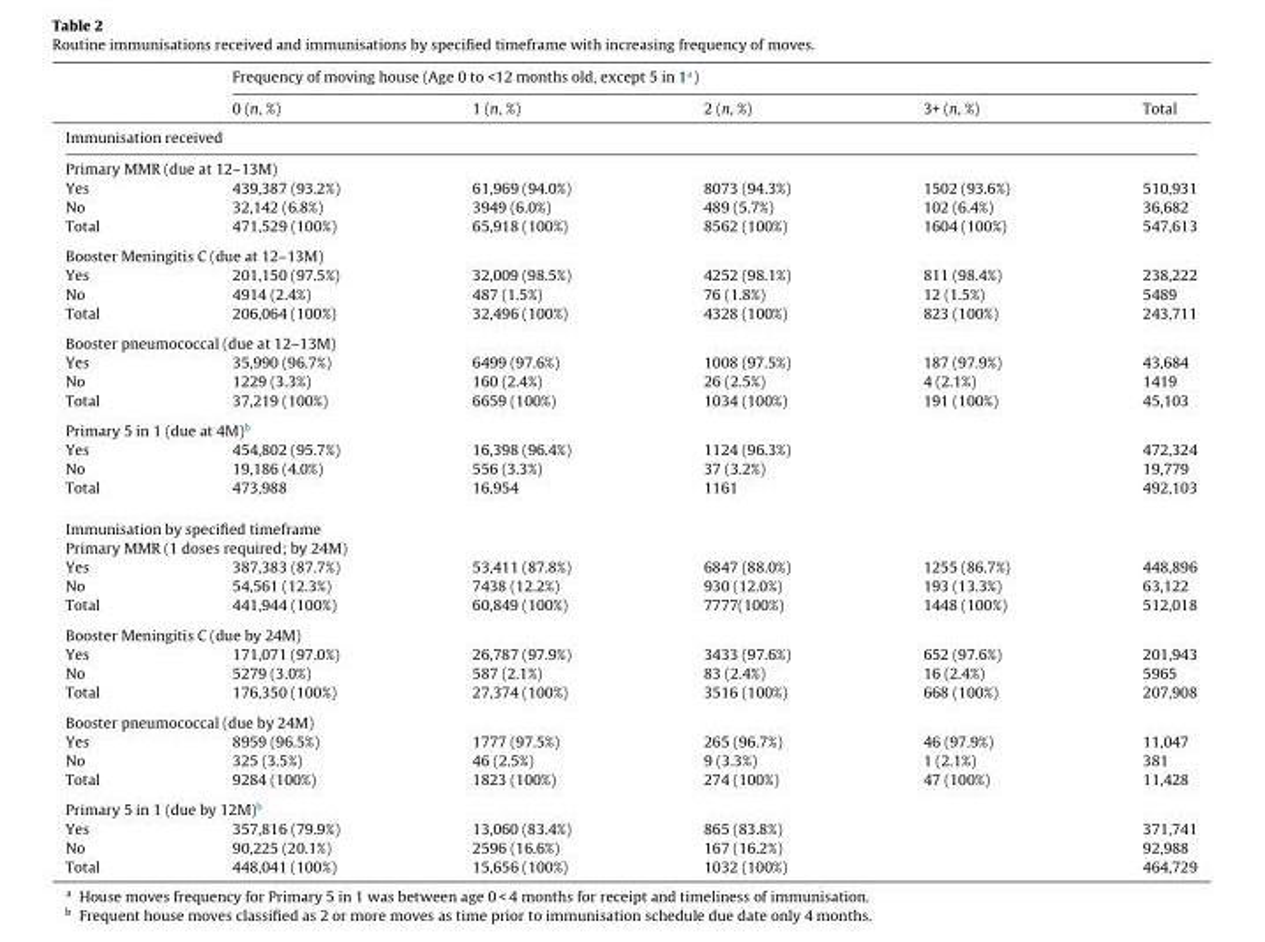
<table><thead><tr><td rowspan="2"></td><td colspan="5">Frequency of moving house (Age 0 to &lt;12 months old, except 5 in 1<sup>a</sup>)</td></tr><tr><td>0 (n, %)</td><td>1 (n, %)</td><td>2 (n, %)</td><td>3+ (n, %)</td><td>Total</td></tr></thead><tbody><tr><td colspan="6">Immunisation received</td></tr><tr><td colspan="6">Primary MMR (due at 12–13M)</td></tr><tr><td>Yes</td><td>439,387 (93.2%)</td><td>61,969 (94.0%)</td><td>8073 (94.3%)</td><td>1502 (93.6%)</td><td>510,931</td></tr><tr><td>No</td><td>32,142 (6.8%)</td><td>3949 (6.0%)</td><td>489 (5.7%)</td><td>102 (6.4%)</td><td>36,682</td></tr><tr><td>Total</td><td>471,529 (100%)</td><td>65,918 (100%)</td><td>8562 (100%)</td><td>1604 (100%)</td><td>547,613</td></tr><tr><td colspan="6">Booster Meningitis C (due at 12–13M)</td></tr><tr><td>Yes</td><td>201,150 (97.5%)</td><td>32,009 (98.5%)</td><td>4252 (98.1%)</td><td>811 (98.4%)</td><td>238,222</td></tr><tr><td>No</td><td>4914 (2.4%)</td><td>487 (1.5%)</td><td>76 (1.8%)</td><td>12 (1.5%)</td><td>5489</td></tr><tr><td>Total</td><td>206,064 (100%)</td><td>32,496 (100%)</td><td>4328 (100%)</td><td>823 (100%)</td><td>243,711</td></tr><tr><td colspan="6">Booster pneumococcal (due at 12–13M)</td></tr><tr><td>Yes</td><td>35,990 (96.7%)</td><td>6499 (97.6%)</td><td>1008 (97.5%)</td><td>187 (97.9%)</td><td>43,684</td></tr><tr><td>No</td><td>1229 (3.3%)</td><td>160 (2.4%)</td><td>26 (2.5%)</td><td>4 (2.1%)</td><td>1419</td></tr><tr><td>Total</td><td>37,219 (100%)</td><td>6659 (100%)</td><td>1034 (100%)</td><td>191 (100%)</td><td>45,103</td></tr><tr><td colspan="6">Primary 5 in 1 (due at 4M)<sup>b</sup></td></tr><tr><td>Yes</td><td>454,802 (95.7%)</td><td>16,398 (96.4%)</td><td>1124 (96.3%)</td><td></td><td>472,324</td></tr><tr><td>No</td><td>19,186 (4.0%)</td><td>556 (3.3%)</td><td>37 (3.2%)</td><td></td><td>19,779</td></tr><tr><td>Total</td><td>473,988</td><td>16,954</td><td>1161</td><td></td><td>492,103</td></tr><tr><td colspan="6">Immunisation by specified timeframe</td></tr><tr><td colspan="6">Primary MMR (1 doses required; by 24M)</td></tr><tr><td>Yes</td><td>387,383 (87.7%)</td><td>53,411 (87.8%)</td><td>6847 (88.0%)</td><td>1255 (86.7%)</td><td>448,896</td></tr><tr><td>No</td><td>54,561 (12.3%)</td><td>7438 (12.2%)</td><td>930 (12.0%)</td><td>193 (13.3%)</td><td>63,122</td></tr><tr><td>Total</td><td>441,944 (100%)</td><td>60,849 (100%)</td><td>7777(100%)</td><td>1448 (100%)</td><td>512,018</td></tr><tr><td colspan="6">Booster Meningitis C (due by 24M)</td></tr><tr><td>Yes</td><td>171,071 (97.0%)</td><td>26,787 (97.9%)</td><td>3433 (97.6%)</td><td>652 (97.6%)</td><td>201,943</td></tr><tr><td>No</td><td>5279 (3.0%)</td><td>587 (2.1%)</td><td>83 (2.4%)</td><td>16 (2.4%)</td><td>5965</td></tr><tr><td>Total</td><td>176,350 (100%)</td><td>27,374 (100%)</td><td>3516 (100%)</td><td>668 (100%)</td><td>207,908</td></tr><tr><td colspan="6">Booster pneumococcal (due by 24M)</td></tr><tr><td>Yes</td><td>8959 (96.5%)</td><td>1777 (97.5%)</td><td>265 (96.7%)</td><td>46 (97.9%)</td><td>11,047</td></tr><tr><td>No</td><td>325 (3.5%)</td><td>46 (2.5%)</td><td>9 (3.3%)</td><td>1 (2.1%)</td><td>381</td></tr><tr><td>Total</td><td>9284 (100%)</td><td>1823 (100%)</td><td>274 (100%)</td><td>47 (100%)</td><td>11,428</td></tr><tr><td colspan="6">Primary 5 in 1 (due by 12M)<sup>b</sup></td></tr><tr><td>Yes</td><td>357,816 (79.9%)</td><td>13,060 (83.4%)</td><td>865 (83.8%)</td><td></td><td>371,741</td></tr><tr><td>No</td><td>90,225 (20.1%)</td><td>2596 (16.6%)</td><td>167 (16.2%)</td><td></td><td>92,988</td></tr><tr><td>Total</td><td>448,041 (100%)</td><td>15,656 (100%)</td><td>1032 (100%)</td><td></td><td>464,729</td></tr></tbody></table>